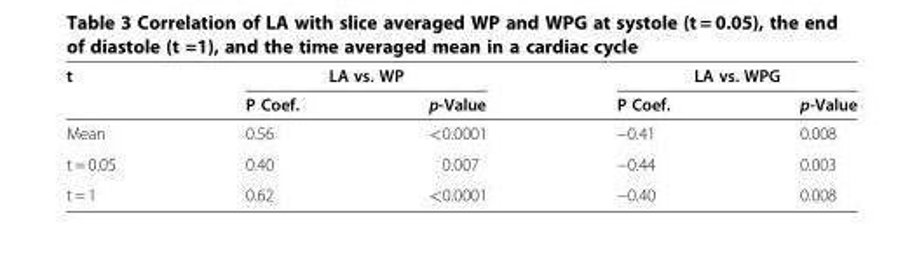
<table><thead><tr><td rowspan="2">t</td><td colspan="2">LA vs. WP</td><td colspan="2">LA vs. WPG</td></tr><tr><td>P Coef.</td><td>p-Value</td><td>P Coef.</td><td>p-Value</td></tr></thead><tbody><tr><td>Mean</td><td>0.56</td><td>&lt;0.0001</td><td>−0.41</td><td>0.008</td></tr><tr><td>t = 0.05</td><td>0.40</td><td>0.007</td><td>−0.44</td><td>0.003</td></tr><tr><td>t = 1</td><td>0.62</td><td>&lt;0.0001</td><td>−0.40</td><td>0.008</td></tr></tbody></table>